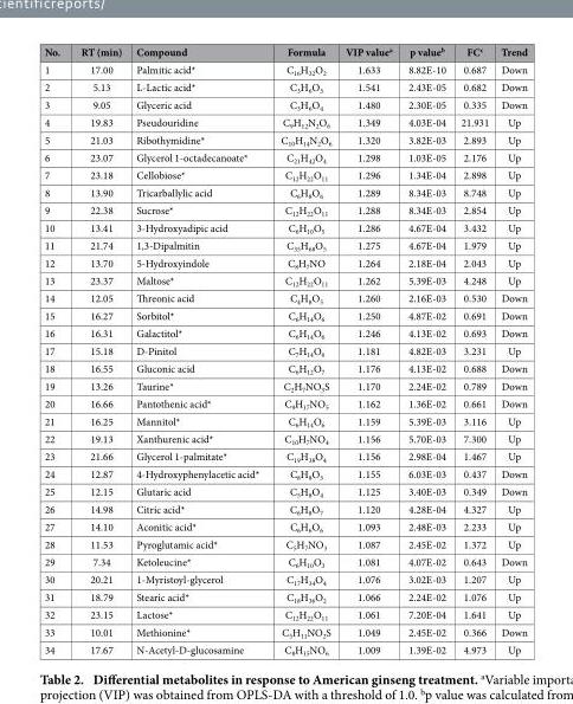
<table><thead><tr><td>No.</td><td>RT (min)</td><td>Compound</td><td>Formula</td><td>VIP value<sup>a</sup></td><td>p value<sup>b</sup></td><td>FC<sup>c</sup></td><td>Trend</td></tr></thead><tbody><tr><td>1</td><td>17.00</td><td>Palmitic acid*</td><td>C<sub>16</sub>H<sub>32</sub>O<sub>2</sub></td><td>1.633</td><td>8.82E-10</td><td>0.687</td><td>Down</td></tr><tr><td>2</td><td>5.13</td><td>L-Lactic acid*</td><td>C<sub>3</sub>H<sub>6</sub>O<sub>3</sub></td><td>1.541</td><td>2.43E-05</td><td>0.682</td><td>Down</td></tr><tr><td>3</td><td>9.05</td><td>Glyceric acid</td><td>C<sub>3</sub>H<sub>6</sub>O<sub>4</sub></td><td>1.480</td><td>2.30E-05</td><td>0.335</td><td>Down</td></tr><tr><td>4</td><td>19.83</td><td>Pseudouridine</td><td>C<sub>9</sub>H<sub>12</sub>N<sub>2</sub>O<sub>6</sub></td><td>1.349</td><td>4.03E-04</td><td>21.931</td><td>Up</td></tr><tr><td>5</td><td>21.03</td><td>Ribothymidine*</td><td>C<sub>10</sub>H<sub>14</sub>N<sub>2</sub>O<sub>6</sub></td><td>1.320</td><td>3.82E-03</td><td>2.893</td><td>Up</td></tr><tr><td>6</td><td>23.07</td><td>Glycerol 1-octadecanoate*</td><td>C<sub>21</sub>H<sub>42</sub>O<sub>4</sub></td><td>1.298</td><td>1.03E-05</td><td>2.176</td><td>Up</td></tr><tr><td>7</td><td>23.18</td><td>Cellobiose*</td><td>C<sub>12</sub>H<sub>22</sub>O<sub>11</sub></td><td>1.296</td><td>1.34E-04</td><td>2.898</td><td>Up</td></tr><tr><td>8</td><td>13.90</td><td>Tricarballylic acid</td><td>C<sub>6</sub>H<sub>8</sub>O<sub>6</sub></td><td>1.289</td><td>8.34E-03</td><td>8.748</td><td>Up</td></tr><tr><td>9</td><td>22.38</td><td>Sucrose*</td><td>C<sub>12</sub>H<sub>22</sub>O<sub>11</sub></td><td>1.288</td><td>8.34E-03</td><td>2.854</td><td>Up</td></tr><tr><td>10</td><td>13.41</td><td>3-Hydroxyadipic acid</td><td>C<sub>6</sub>H<sub>10</sub>O<sub>5</sub></td><td>1.286</td><td>4.67E-04</td><td>3.432</td><td>Up</td></tr><tr><td>11</td><td>21.74</td><td>1,3-Dipalmitin</td><td>C<sub>35</sub>H<sub>68</sub>O<sub>5</sub></td><td>1.275</td><td>4.67E-04</td><td>1.979</td><td>Up</td></tr><tr><td>12</td><td>13.70</td><td>5-Hydroxyindole</td><td>C<sub>8</sub>H<sub>7</sub>NO</td><td>1.264</td><td>2.18E-04</td><td>2.043</td><td>Up</td></tr><tr><td>13</td><td>23.37</td><td>Maltose*</td><td>C<sub>12</sub>H<sub>22</sub>O<sub>11</sub></td><td>1.262</td><td>5.39E-03</td><td>4.248</td><td>Up</td></tr><tr><td>14</td><td>12.05</td><td>Threonic acid</td><td>C<sub>4</sub>H<sub>8</sub>O<sub>5</sub></td><td>1.260</td><td>2.16E-03</td><td>0.530</td><td>Down</td></tr><tr><td>15</td><td>16.27</td><td>Sorbitol*</td><td>C<sub>6</sub>H<sub>14</sub>O<sub>6</sub></td><td>1.250</td><td>4.87E-02</td><td>0.691</td><td>Down</td></tr><tr><td>16</td><td>16.31</td><td>Galactitol*</td><td>C<sub>6</sub>H<sub>14</sub>O<sub>6</sub></td><td>1.246</td><td>4.13E-02</td><td>0.693</td><td>Down</td></tr><tr><td>17</td><td>15.18</td><td>D-Pinitol</td><td>C<sub>7</sub>H<sub>14</sub>O<sub>6</sub></td><td>1.181</td><td>4.82E-03</td><td>3.231</td><td>Up</td></tr><tr><td>18</td><td>16.55</td><td>Gluconic acid</td><td>C<sub>6</sub>H<sub>12</sub>O<sub>7</sub></td><td>1.176</td><td>4.13E-02</td><td>0.688</td><td>Down</td></tr><tr><td>19</td><td>13.26</td><td>Taurine*</td><td>C<sub>2</sub>H<sub>7</sub>NO<sub>3</sub>S</td><td>1.170</td><td>2.24E-02</td><td>0.789</td><td>Down</td></tr><tr><td>20</td><td>16.66</td><td>Pantothenic acid*</td><td>C<sub>9</sub>H<sub>17</sub>NO<sub>5</sub></td><td>1.162</td><td>1.36E-02</td><td>0.661</td><td>Down</td></tr><tr><td>21</td><td>16.25</td><td>Mannitol*</td><td>C<sub>6</sub>H<sub>14</sub>O<sub>6</sub></td><td>1.159</td><td>5.39E-03</td><td>3.116</td><td>Up</td></tr><tr><td>22</td><td>19.13</td><td>Xanthurenic acid*</td><td>C<sub>10</sub>H<sub>7</sub>NO<sub>4</sub></td><td>1.156</td><td>5.70E-03</td><td>7.300</td><td>Up</td></tr><tr><td>23</td><td>21.66</td><td>Glycerol 1-palmitate*</td><td>C<sub>19</sub>H<sub>38</sub>O<sub>4</sub></td><td>1.156</td><td>2.98E-04</td><td>1.467</td><td>Up</td></tr><tr><td>24</td><td>12.87</td><td>4-Hydroxyphenylacetic acid*</td><td>C<sub>8</sub>H<sub>8</sub>O<sub>3</sub></td><td>1.155</td><td>6.03E-03</td><td>0.437</td><td>Down</td></tr><tr><td>25</td><td>12.15</td><td>Glutaric acid</td><td>C<sub>5</sub>H<sub>8</sub>O<sub>4</sub></td><td>1.125</td><td>3.40E-03</td><td>0.349</td><td>Down</td></tr><tr><td>26</td><td>14.98</td><td>Citric acid*</td><td>C<sub>6</sub>H<sub>8</sub>O<sub>7</sub></td><td>1.120</td><td>4.28E-04</td><td>4.327</td><td>Up</td></tr><tr><td>27</td><td>14.10</td><td>Aconitic acid*</td><td>C<sub>6</sub>H<sub>6</sub>O<sub>6</sub></td><td>1.093</td><td>2.48E-03</td><td>2.233</td><td>Up</td></tr><tr><td>28</td><td>11.53</td><td>Pyroglutamic acid*</td><td>C<sub>5</sub>H<sub>7</sub>NO<sub>3</sub></td><td>1.087</td><td>2.45E-02</td><td>1.372</td><td>Up</td></tr><tr><td>29</td><td>7.34</td><td>Ketoleucine*</td><td>C<sub>6</sub>H<sub>10</sub>O<sub>3</sub></td><td>1.081</td><td>4.07E-02</td><td>0.643</td><td>Down</td></tr><tr><td>30</td><td>20.21</td><td>1-Myristoyl-glycerol</td><td>C<sub>17</sub>H<sub>34</sub>O<sub>4</sub></td><td>1.076</td><td>3.02E-03</td><td>1.207</td><td>Up</td></tr><tr><td>31</td><td>18.79</td><td>Stearic acid*</td><td>C<sub>18</sub>H<sub>36</sub>O<sub>2</sub></td><td>1.066</td><td>2.24E-02</td><td>1.076</td><td>Up</td></tr><tr><td>32</td><td>23.15</td><td>Lactose*</td><td>C<sub>12</sub>H<sub>22</sub>O<sub>11</sub></td><td>1.061</td><td>7.20E-04</td><td>1.641</td><td>Up</td></tr><tr><td>33</td><td>10.01</td><td>Methionine*</td><td>C<sub>5</sub>H<sub>11</sub>NO<sub>2</sub>S</td><td>1.049</td><td>2.45E-02</td><td>0.366</td><td>Down</td></tr><tr><td>34</td><td>17.67</td><td>N-Acetyl-D-glucosamine</td><td>C<sub>8</sub>H<sub>15</sub>NO<sub>6</sub></td><td>1.009</td><td>1.39E-02</td><td>4.973</td><td>Up</td></tr></tbody></table>